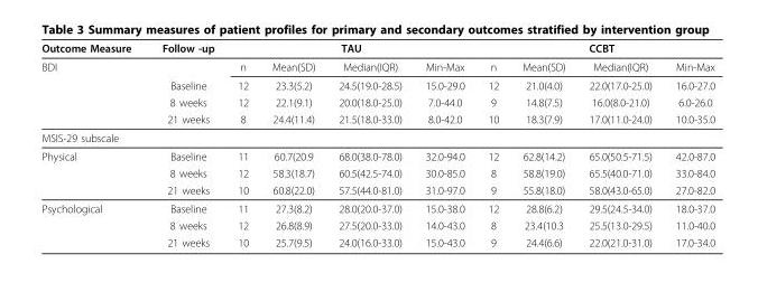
<table><thead><tr><td rowspan="2">Outcome Measure BDI</td><td rowspan="2">Follow -up</td><td colspan="4">TAU</td><td colspan="4">CCBT</td></tr><tr><td>n</td><td>Mean(SD)</td><td>Median(IQR)</td><td>Min-Max</td><td>n</td><td>Mean(SD)</td><td>Median(IQR)</td><td>Min-Max</td></tr></thead><tbody><tr><td></td><td>Baseline</td><td>12</td><td>23.3(5.2)</td><td>24.5(19.0-28.5)</td><td>15.0-29.0</td><td>12</td><td>21.0(4.0)</td><td>22.0(17.0-25.0)</td><td>16.0-27.0</td></tr><tr><td></td><td>8 weeks</td><td>12</td><td>22.1(9.1)</td><td>20.0(18.0-25.0)</td><td>7.0-44.0</td><td>9</td><td>14.8(7.5)</td><td>16.0(8.0-21.0)</td><td>6.0-26.0</td></tr><tr><td></td><td>21 weeks</td><td>8</td><td>24.4(11.4)</td><td>21.5(18.0-33.0)</td><td>8.0-42.0</td><td>10</td><td>18.3(7.9)</td><td>17.0(11.0-24.0)</td><td>10.0-35.0</td></tr><tr><td colspan="10">MSIS-29 subscale</td></tr><tr><td rowspan="3">Physical</td><td>Baseline</td><td>11</td><td>60.7(20.9</td><td>68.0(38.0-78.0)</td><td>32.0-94.0</td><td>12</td><td>62.8(14.2)</td><td>65.0(50.5-71.5)</td><td>42.0-87.0</td></tr><tr><td>8 weeks</td><td>12</td><td>58.3(18.7)</td><td>60.5(42.5-74.0)</td><td>30.0-85.0</td><td>8</td><td>58.8(19.0)</td><td>65.5(40.0-71.0)</td><td>33.0-84.0</td></tr><tr><td>21 weeks</td><td>10</td><td>60.8(22.0)</td><td>57.5(44.0-81.0)</td><td>31.0-97.0</td><td>9</td><td>55.8(18.0)</td><td>58.0(43.0-65.0)</td><td>27.0-82.0</td></tr><tr><td rowspan="3">Psychological</td><td>Baseline</td><td>11</td><td>27.3(8.2)</td><td>28.0(20.0-37.0)</td><td>15.0-38.0</td><td>12</td><td>28.8(6.2)</td><td>29.5(24.5-34.0)</td><td>18.0-37.0</td></tr><tr><td>8 weeks</td><td>12</td><td>26.8(8.9)</td><td>27.5(20.0-33.0)</td><td>14.0-43.0</td><td>8</td><td>23.4(10.3</td><td>25.5(13.0-29.5)</td><td>11.0-40.0</td></tr><tr><td>21 weeks</td><td>10</td><td>25.7(9.5)</td><td>24.0(16.0-33.0)</td><td>15.0-43.0</td><td>9</td><td>24.4(6.6)</td><td>22.0(21.0-31.0)</td><td>17.0-34.0</td></tr></tbody></table>